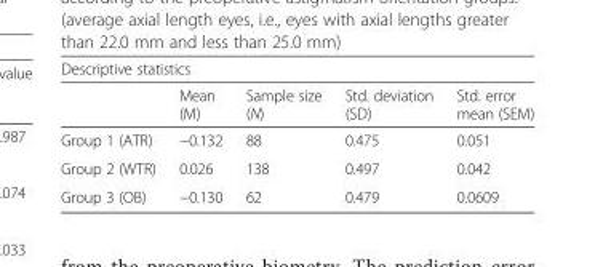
<table><thead><tr><td colspan="5">Descriptive statistics</td></tr><tr><td></td><td>Mean (M)</td><td>Sample size (N)</td><td>Std. deviation (SD)</td><td>Std. error mean (SEM)</td></tr></thead><tbody><tr><td>Group 1 (ATR)</td><td>−0.132</td><td>88</td><td>0.475</td><td>0.051</td></tr><tr><td>Group 2 (WTR)</td><td>0.026</td><td>138</td><td>0.497</td><td>0.042</td></tr><tr><td>Group 3 (OB)</td><td>−0.130</td><td>62</td><td>0.479</td><td>0.0609</td></tr></tbody></table>